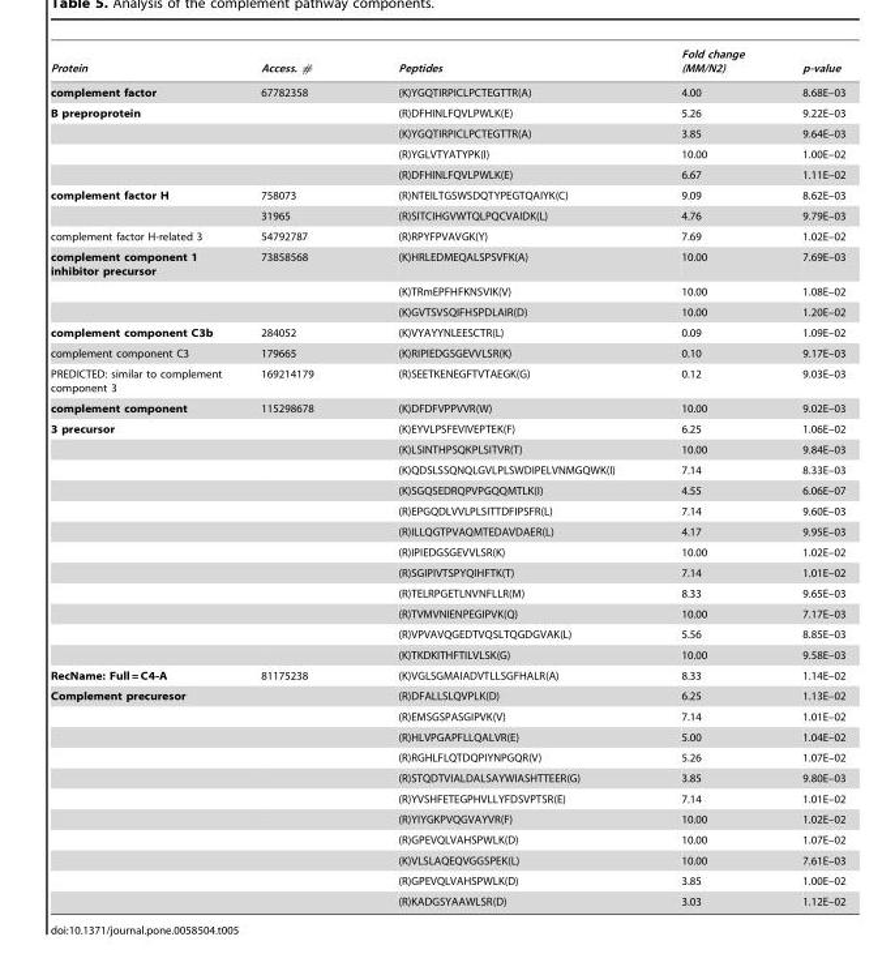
<table><thead><tr><td>Protein</td><td>Access. #</td><td>Peptides</td><td>Fold change (MM/N2)</td><td>p-value</td></tr></thead><tbody><tr><td>complement factor</td><td>67782358</td><td>(K)YGQTIRPICLPCTEGTTR(A)</td><td>4.00</td><td>8.68E–03</td></tr><tr><td rowspan="4">B preproprotein</td><td></td><td>(R)DFHINLFQVLPWLK(E)</td><td>5.26</td><td>9.22E–03</td></tr><tr><td></td><td>(K)YGQTIRPICLPCTEGTTR(A)</td><td>3.85</td><td>9.64E–03</td></tr><tr><td></td><td>(R)YGLVTYATYPK(I)</td><td>10.00</td><td>1.00E–02</td></tr><tr><td></td><td>(R)DFHINLFQVLPWLK(E)</td><td>6.67</td><td>1.11E–02</td></tr><tr><td rowspan="2">complement factor H</td><td>758073</td><td>(R)NTEILTGSWSDQTYPEGTQAIYK(C)</td><td>9.09</td><td>8.62E–03</td></tr><tr><td>31965</td><td>(R)SITCIHGVWTQLPQCVAIDK(L)</td><td>4.76</td><td>9.79E–03</td></tr><tr><td>complement factor H-related 3</td><td>54792787</td><td>(R)RPYFPVAVGK(Y)</td><td>7.69</td><td>1.02E–02</td></tr><tr><td rowspan="3">complement component 1 inhibitor precursor</td><td>73858568</td><td>(K)HRLEDMEQALSPSVFK(A)</td><td>10.00</td><td>7.69E–03</td></tr><tr><td></td><td>(K)TRmEPFHFKNSVIK(V)</td><td>10.00</td><td>1.08E–02</td></tr><tr><td></td><td>(K)GVTSVSQIFHSPDLAIR(D)</td><td>10.00</td><td>1.20E–02</td></tr><tr><td>complement component C3b</td><td>284052</td><td>(K)VYAYYNLEESCTR(L)</td><td>0.09</td><td>1.09E–02</td></tr><tr><td>complement component C3</td><td>179665</td><td>(K)RIPIEDGSGEVVLSR(K)</td><td>0.10</td><td>9.17E–03</td></tr><tr><td>PREDICTED: similar to complement component 3</td><td>169214179</td><td>(R)SEETKENEGFTVTAEGK(G)</td><td>0.12</td><td>9.03E–03</td></tr><tr><td>complement component</td><td>115298678</td><td>(K)DFDFVPPVVR(W)</td><td>10.00</td><td>9.02E–03</td></tr><tr><td rowspan="12">3 precursor</td><td></td><td>(K)EYVLPSFEVIVEPTEK(F)</td><td>6.25</td><td>1.06E–02</td></tr><tr><td></td><td>(K)LSINTHPSQKPLSITVR(T)</td><td>10.00</td><td>9.84E–03</td></tr><tr><td></td><td>(K)QDSLSSQNQLGVLPLSWDIPELVNMGQWK(I)</td><td>7.14</td><td>8.33E–03</td></tr><tr><td></td><td>(K)SGQSEDRQPVPGQQMTLK(I)</td><td>4.55</td><td>6.06E–07</td></tr><tr><td></td><td>(R)EPGQDLVVLPLSITTDFIPSFR(L)</td><td>7.14</td><td>9.60E–03</td></tr><tr><td></td><td>(R)ILLQGTPVAQMTEDAVDAER(L)</td><td>4.17</td><td>9.95E–03</td></tr><tr><td></td><td>(R)IPIEDGSGEVVLSR(K)</td><td>10.00</td><td>1.02E–02</td></tr><tr><td></td><td>(R)SGIPIVTSPYQIHFTK(T)</td><td>7.14</td><td>1.01E–02</td></tr><tr><td></td><td>(R)TELRPGETLNVNFLLR(M)</td><td>8.33</td><td>9.65E–03</td></tr><tr><td></td><td>(R)TVMVNIENPEGIPVK(Q)</td><td>10.00</td><td>7.17E–03</td></tr><tr><td></td><td>(R)VPVAVQGEDTVQSLTQGDGVAK(L)</td><td>5.56</td><td>8.85E–03</td></tr><tr><td></td><td>(K)TKDKITHFTILVLSK(G)</td><td>10.00</td><td>9.58E–03</td></tr><tr><td>RecName: Full = C4-A</td><td>81175238</td><td>(K)VGLSGMAIADVTLLSGFHALR(A)</td><td>8.33</td><td>1.14E–02</td></tr><tr><td rowspan="11">Complement precuresor</td><td></td><td>(R)DFALLSLQVPLK(D)</td><td>6.25</td><td>1.13E–02</td></tr><tr><td></td><td>(R)EMSGSPASGIPVK(V)</td><td>7.14</td><td>1.01E–02</td></tr><tr><td></td><td>(R)HLVPGAPFLLQALVR(E)</td><td>5.00</td><td>1.04E–02</td></tr><tr><td></td><td>(R)RGHLFLQTDQPIYNPGQR(V)</td><td>5.26</td><td>1.07E–02</td></tr><tr><td></td><td>(R)STQDTVIALDALSAYWIASHTTEER(G)</td><td>3.85</td><td>9.80E–03</td></tr><tr><td></td><td>(R)YVSHFETEGPHVLLYFDSVPTSR(E)</td><td>7.14</td><td>1.01E–02</td></tr><tr><td></td><td>(R)YIYGKPVQGVAYVR(F)</td><td>10.00</td><td>1.02E–02</td></tr><tr><td></td><td>(R)GPEVQLVAHSPWLK(D)</td><td>10.00</td><td>1.07E–02</td></tr><tr><td></td><td>(K)VLSLAQEQVGGSPEK(L)</td><td>10.00</td><td>7.61E–03</td></tr><tr><td></td><td>(R)GPEVQLVAHSPWLK(D)</td><td>3.85</td><td>1.00E–02</td></tr><tr><td></td><td>(R)KADGSYAAWLSR(D)</td><td>3.03</td><td>1.12E–02</td></tr></tbody></table>